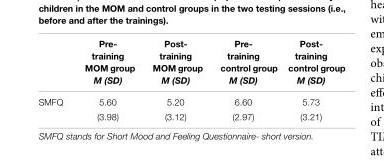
<table><thead><tr><td></td><td>Pre- training MOM group M (SD)</td><td>Post- training MOM group M (SD)</td><td>Pre- training control group M (SD)</td><td>Post- training control group M (SD)</td></tr></thead><tbody><tr><td rowspan="2">SMFQ</td><td>5.60</td><td>5.20</td><td>6.60</td><td>5.73</td></tr><tr><td>(3.98)</td><td>(3.12)</td><td>(2.97)</td><td>(3.21)</td></tr></tbody></table>